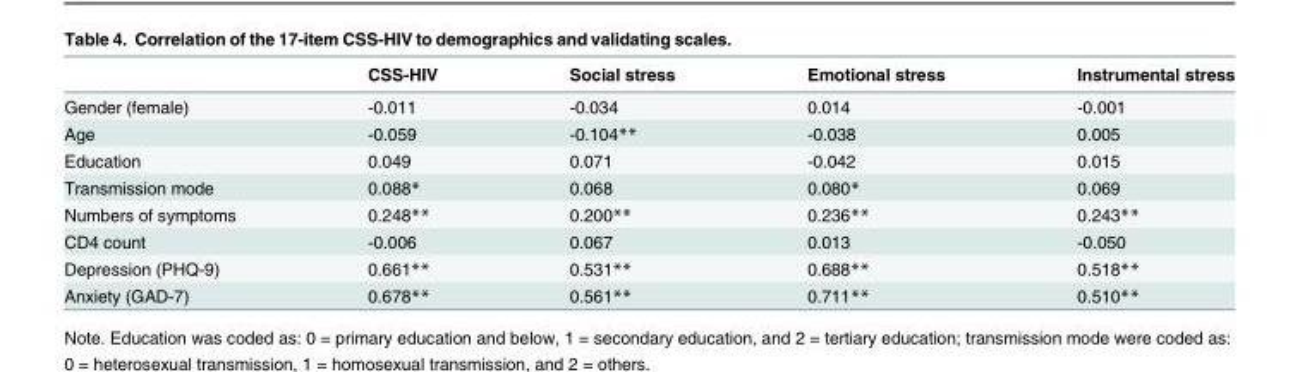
<table><thead><tr><td></td><td>CSS-HIV</td><td>Social stress</td><td>Emotional stress</td><td>Instrumental stress</td></tr></thead><tbody><tr><td>Gender (female)</td><td>-0.011</td><td>-0.034</td><td>0.014</td><td>-0.001</td></tr><tr><td>Age</td><td>-0.059</td><td>-0.104**</td><td>-0.038</td><td>0.005</td></tr><tr><td>Education</td><td>0.049</td><td>0.071</td><td>-0.042</td><td>0.015</td></tr><tr><td>Transmission mode</td><td>0.088*</td><td>0.068</td><td>0.080*</td><td>0.069</td></tr><tr><td>Numbers of symptoms</td><td>0.248**</td><td>0.200**</td><td>0.236**</td><td>0.243**</td></tr><tr><td>CD4 count</td><td>-0.006</td><td>0.067</td><td>0.013</td><td>-0.050</td></tr><tr><td>Depression (PHQ-9)</td><td>0.661**</td><td>0.531**</td><td>0.688**</td><td>0.518**</td></tr><tr><td>Anxiety (GAD-7)</td><td>0.678**</td><td>0.561**</td><td>0.711**</td><td>0.510**</td></tr></tbody></table>